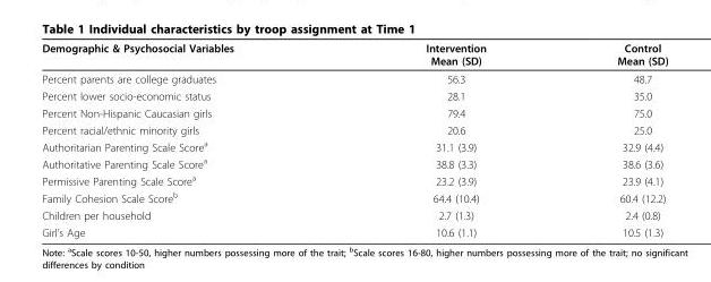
<table><thead><tr><td>Demographic &amp; Psychosocial Variables</td><td>Intervention Mean (SD)</td><td>Control Mean (SD)</td></tr></thead><tbody><tr><td>Percent parents are college graduates</td><td>56.3</td><td>48.7</td></tr><tr><td>Percent lower socio-economic status</td><td>28.1</td><td>35.0</td></tr><tr><td>Percent Non-Hispanic Caucasian girls</td><td>79.4</td><td>75.0</td></tr><tr><td>Percent racial/ethnic minority girls</td><td>20.6</td><td>25.0</td></tr><tr><td>Authoritarian Parenting Scale Score<sup>a</sup></td><td>31.1 (3.9)</td><td>32.9 (4.4)</td></tr><tr><td>Authoritative Parenting Scale Score<sup>a</sup></td><td>38.8 (3.3)</td><td>38.6 (3.6)</td></tr><tr><td>Permissive Parenting Scale Score<sup>a</sup></td><td>23.2 (3.9)</td><td>23.9 (4.1)</td></tr><tr><td>Family Cohesion Scale Score<sup>b</sup></td><td>64.4 (10.4)</td><td>60.4 (12.2)</td></tr><tr><td>Children per household</td><td>2.7 (1.3)</td><td>2.4 (0.8)</td></tr><tr><td>Girl’s Age</td><td>10.6 (1.1)</td><td>10.5 (1.3)</td></tr></tbody></table>